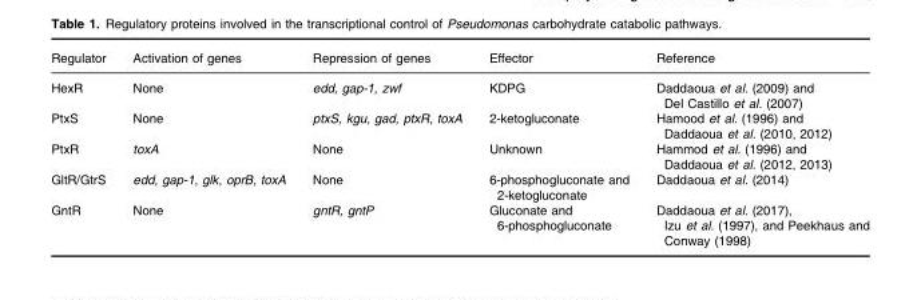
<table><thead><tr><td>Regulator</td><td>Activation of genes</td><td>Repression of genes</td><td>Effector</td><td>Reference</td></tr></thead><tbody><tr><td>HexR</td><td>None</td><td>edd, gap-1, zwf</td><td>KDPG</td><td>Daddaoua et al. (2009) and Del Castillo et al. (2007)</td></tr><tr><td>PtxS</td><td>None</td><td>ptxS, kgu, gad, ptxR, toxA</td><td>2-ketogluconate</td><td>Hamood et al. (1996) and Daddaoua et al. (2010, 2012)</td></tr><tr><td>PtxR</td><td>toxA</td><td>None</td><td>Unknown</td><td>Hammod et al. (1996) and Daddaoua et al. (2012, 2013)</td></tr><tr><td>GltR/GtrS</td><td>edd, gap-1, glk, oprB, toxA</td><td>None</td><td>6-phosphogluconate and 2-ketogluconate</td><td>Daddaoua et al. (2014)</td></tr><tr><td>GntR</td><td>None</td><td>gntR, gntP</td><td>Gluconate and 6-phosphogluconate</td><td>Daddaoua et al. (2017), Izu et al. (1997), and Peekhaus and Conway (1998)</td></tr></tbody></table>